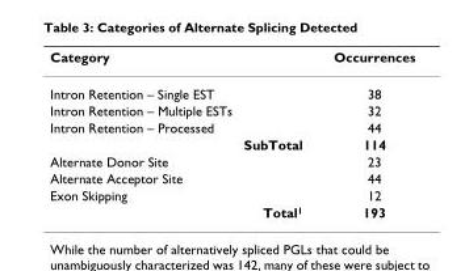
<table><thead><tr><td>Category</td><td>Occurrences</td></tr></thead><tbody><tr><td>Intron Retention – Single EST</td><td>38</td></tr><tr><td>Intron Retention – Multiple ESTs</td><td>32</td></tr><tr><td>Intron Retention – Processed</td><td>44</td></tr><tr><td>SubTotal</td><td>114</td></tr><tr><td>Alternate Donor Site</td><td>23</td></tr><tr><td>Alternate Acceptor Site</td><td>44</td></tr><tr><td>Exon Skipping</td><td>12</td></tr><tr><td>Total<sup>1</sup></td><td>193</td></tr></tbody></table>